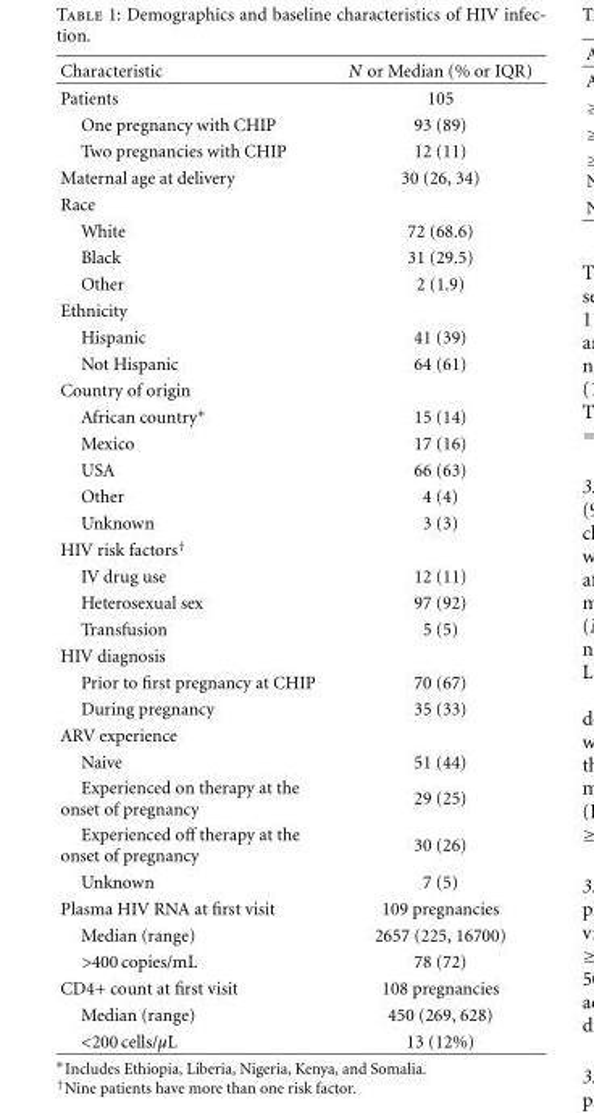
<table><thead><tr><td>Characteristic</td><td>N or Median (% or IQR)</td></tr></thead><tbody><tr><td>Patients</td><td>105</td></tr><tr><td>One pregnancy with CHIP</td><td>93 (89)</td></tr><tr><td>Two pregnancies with CHIP</td><td>12 (11)</td></tr><tr><td>Maternal age at delivery</td><td>30 (26, 34)</td></tr><tr><td colspan="2">Race</td></tr><tr><td>White</td><td>72 (68.6)</td></tr><tr><td>Black</td><td>31 (29.5)</td></tr><tr><td>Other</td><td>2 (1.9)</td></tr><tr><td colspan="2">Ethnicity</td></tr><tr><td>Hispanic</td><td>41 (39)</td></tr><tr><td>Not Hispanic</td><td>64 (61)</td></tr><tr><td colspan="2">Country of origin</td></tr><tr><td>African country∗</td><td>15 (14)</td></tr><tr><td>Mexico</td><td>17 (16)</td></tr><tr><td>USA</td><td>66 (63)</td></tr><tr><td>Other</td><td>4 (4)</td></tr><tr><td>Unknown</td><td>3 (3)</td></tr><tr><td colspan="2">HIV risk factors<sup>†</sup></td></tr><tr><td>IV drug use</td><td>12 (11)</td></tr><tr><td>Heterosexual sex</td><td>97 (92)</td></tr><tr><td>Transfusion</td><td>5 (5)</td></tr><tr><td colspan="2">HIV diagnosis</td></tr><tr><td>Prior to first pregnancy at CHIP</td><td>70 (67)</td></tr><tr><td>During pregnancy</td><td>35 (33)</td></tr><tr><td colspan="2">ARV experience</td></tr><tr><td>Naive</td><td>51 (44)</td></tr><tr><td>Experienced on therapy at the onset of pregnancy</td><td>29 (25)</td></tr><tr><td>Experienced off therapy at the onset of pregnancy</td><td>30 (26)</td></tr><tr><td>Unknown</td><td>7 (5)</td></tr><tr><td>Plasma HIV RNA at first visit</td><td>109 pregnancies</td></tr><tr><td>Median (range)</td><td>2657 (225, 16700)</td></tr><tr><td>&gt;400 copies/mL</td><td>78 (72)</td></tr><tr><td>CD4+ count at first visit</td><td>108 pregnancies</td></tr><tr><td>Median (range)</td><td>450 (269, 628)</td></tr><tr><td>&lt;200 cells/µL</td><td>13 (12%)</td></tr></tbody></table>